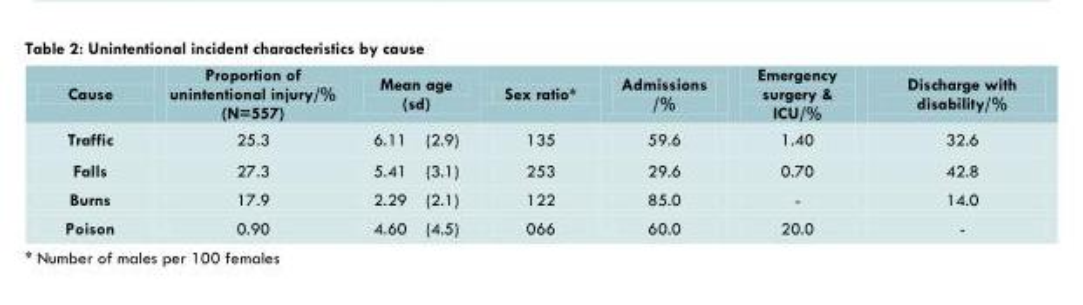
<table><thead><tr><td>Cause</td><td>Proportion of unintentional injury/% (N=557)</td><td>Mean age (sd)</td><td>Sex ratio*</td><td>Admissions /%</td><td>Emergency surgery &amp; ICU/%</td><td>Discharge with disability/%</td></tr></thead><tbody><tr><td>Traffic</td><td>25.3</td><td>6.11 (2.9)</td><td>135</td><td>59.6</td><td>1.40</td><td>32.6</td></tr><tr><td>Falls</td><td>27.3</td><td>5.41 (3.1)</td><td>253</td><td>29.6</td><td>0.70</td><td>42.8</td></tr><tr><td>Burns</td><td>17.9</td><td>2.29 (2.1)</td><td>122</td><td>85.0</td><td>-</td><td>14.0</td></tr><tr><td>Poison</td><td>0.90</td><td>4.60 (4.5)</td><td>066</td><td>60.0</td><td>20.0</td><td>-</td></tr></tbody></table>